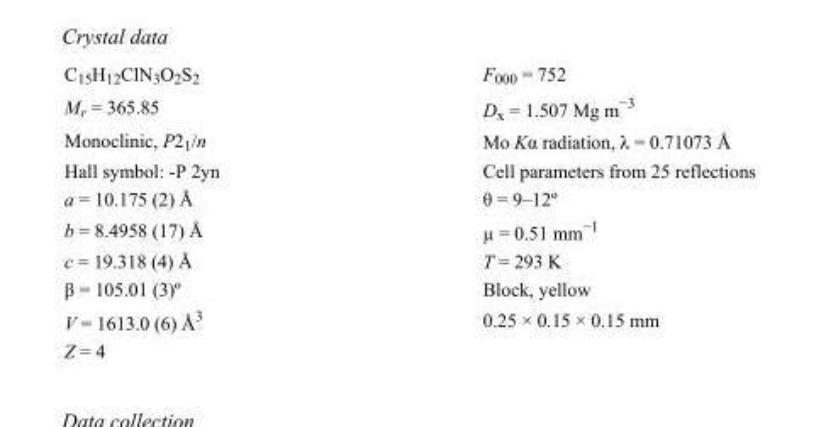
<table><tbody><tr><td>C<sub>15</sub>H<sub>12</sub>ClN<sub>3</sub>O<sub>2</sub>S<sub>2</sub></td><td>F000 = 752</td></tr><tr><td>M<sub>r</sub> = 365.85</td><td>D<sub>x</sub> = 1.507 Mg m<sup>−3</sup></td></tr><tr><td>Monoclinic, P2<sub>1</sub>/n</td><td>Mo Kα radiation, λ = 0.71073 Å</td></tr><tr><td>Hall symbol: -P 2yn</td><td>Cell parameters from 25 reflections</td></tr><tr><td>a = 10.175 (2) Å</td><td>θ = 9–12º</td></tr><tr><td>b = 8.4958 (17) Å</td><td>µ = 0.51 mm<sup>−1</sup></td></tr><tr><td>c = 19.318 (4) Å</td><td>T = 293 K</td></tr><tr><td>β = 105.01 (3)º</td><td>Block, yellow</td></tr><tr><td>V = 1613.0 (6) Å<sup>3</sup></td><td>0.25 × 0.15 × 0.15 mm</td></tr><tr><td>Z = 4</td><td></td></tr></tbody></table>